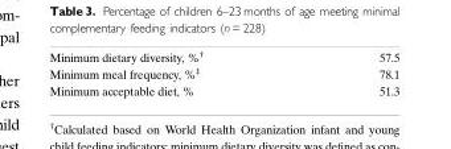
<table><tbody><tr><td>Minimum dietary diversity, %†</td><td>57.5</td></tr><tr><td>Minimum meal frequency, %‡</td><td>78.1</td></tr><tr><td>Minimum acceptable diet, %</td><td>51.3</td></tr></tbody></table>